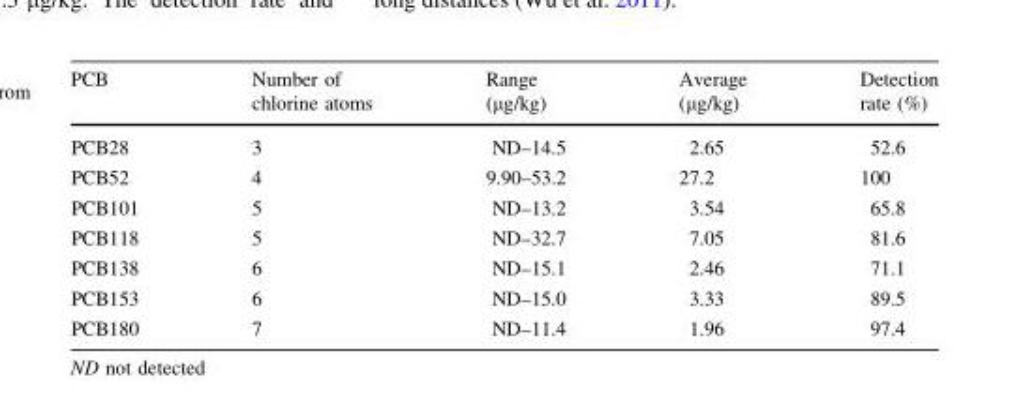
<table><thead><tr><td>PCB</td><td>Number of chlorine atoms</td><td>Range (μg/kg)</td><td>Average (μg/kg)</td><td>Detection rate (%)</td></tr></thead><tbody><tr><td>PCB28</td><td>3</td><td>ND–14.5</td><td>2.65</td><td>52.6</td></tr><tr><td>PCB52</td><td>4</td><td>9.90–53.2</td><td>27.2</td><td>100</td></tr><tr><td>PCB101</td><td>5</td><td>ND–13.2</td><td>3.54</td><td>65.8</td></tr><tr><td>PCB118</td><td>5</td><td>ND–32.7</td><td>7.05</td><td>81.6</td></tr><tr><td>PCB138</td><td>6</td><td>ND–15.1</td><td>2.46</td><td>71.1</td></tr><tr><td>PCB153</td><td>6</td><td>ND–15.0</td><td>3.33</td><td>89.5</td></tr><tr><td>PCB180</td><td>7</td><td>ND–11.4</td><td>1.96</td><td>97.4</td></tr></tbody></table>